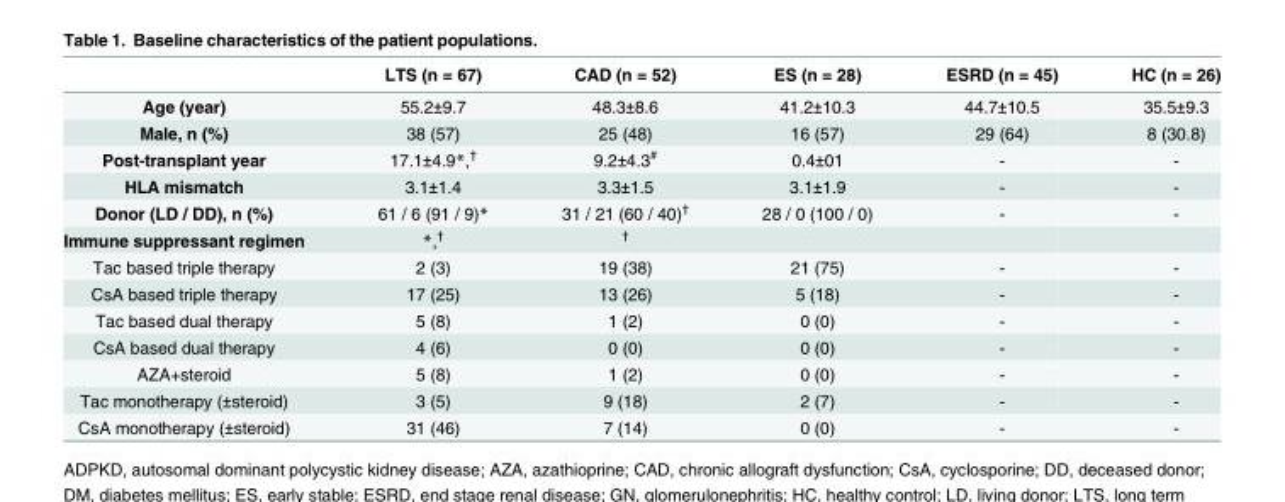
<table><thead><tr><td></td><td>LTS (n = 67)</td><td>CAD (n = 52)</td><td>ES (n = 28)</td><td>ESRD (n = 45)</td><td>HC (n = 26)</td></tr></thead><tbody><tr><td>Age (year)</td><td>55.2±9.7</td><td>48.3±8.6</td><td>41.2±10.3</td><td>44.7±10.5</td><td>35.5±9.3</td></tr><tr><td>Male, n (%)</td><td>38 (57)</td><td>25 (48)</td><td>16 (57)</td><td>29 (64)</td><td>8 (30.8)</td></tr><tr><td>Post-transplant year</td><td>17.1±4.9*,<sup>†</sup></td><td>9.2±4.3<sup>#</sup></td><td>0.4±01</td><td>-</td><td>-</td></tr><tr><td>HLA mismatch</td><td>3.1±1.4</td><td>3.3±1.5</td><td>3.1±1.9</td><td>-</td><td>-</td></tr><tr><td>Donor (LD / DD), n (%)</td><td>61 / 6 (91 / 9)*</td><td>31 / 21 (60 / 40)<sup>†</sup></td><td>28 / 0 (100 / 0)</td><td>-</td><td>-</td></tr><tr><td>Immune suppressant regimen</td><td>*,<sup>†</sup></td><td><sup>†</sup></td><td></td><td></td><td></td></tr><tr><td>Tac based triple therapy</td><td>2 (3)</td><td>19 (38)</td><td>21 (75)</td><td>-</td><td>-</td></tr><tr><td>CsA based triple therapy</td><td>17 (25)</td><td>13 (26)</td><td>5 (18)</td><td>-</td><td>-</td></tr><tr><td>Tac based dual therapy</td><td>5 (8)</td><td>1 (2)</td><td>0 (0)</td><td>-</td><td>-</td></tr><tr><td>CsA based dual therapy</td><td>4 (6)</td><td>0 (0)</td><td>0 (0)</td><td>-</td><td>-</td></tr><tr><td>AZA+steroid</td><td>5 (8)</td><td>1 (2)</td><td>0 (0)</td><td>-</td><td>-</td></tr><tr><td>Tac monotherapy (±steroid)</td><td>3 (5)</td><td>9 (18)</td><td>2 (7)</td><td>-</td><td>-</td></tr><tr><td>CsA monotherapy (±steroid)</td><td>31 (46)</td><td>7 (14)</td><td>0 (0)</td><td>-</td><td>-</td></tr></tbody></table>